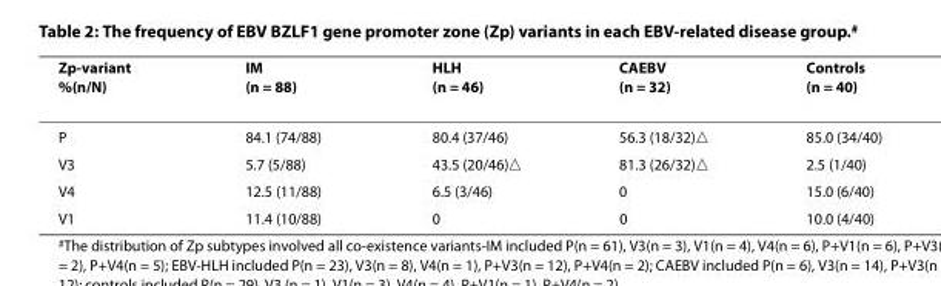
<table><thead><tr><td>Zp-variant %(n/N)</td><td>IM (n = 88)</td><td>HLH (n = 46)</td><td>CAEBV (n = 32)</td><td>Controls (n = 40)</td></tr></thead><tbody><tr><td>P</td><td>84.1 (74/88)</td><td>80.4 (37/46)</td><td>56.3 (18/32)<sup>△</sup></td><td>85.0 (34/40)</td></tr><tr><td>V3</td><td>5.7 (5/88)</td><td>43.5 (20/46)<sup>△</sup></td><td>81.3 (26/32)<sup>△</sup></td><td>2.5 (1/40)</td></tr><tr><td>V4</td><td>12.5 (11/88)</td><td>6.5 (3/46)</td><td>0</td><td>15.0 (6/40)</td></tr><tr><td>V1</td><td>11.4 (10/88)</td><td>0</td><td>0</td><td>10.0 (4/40)</td></tr></tbody></table>